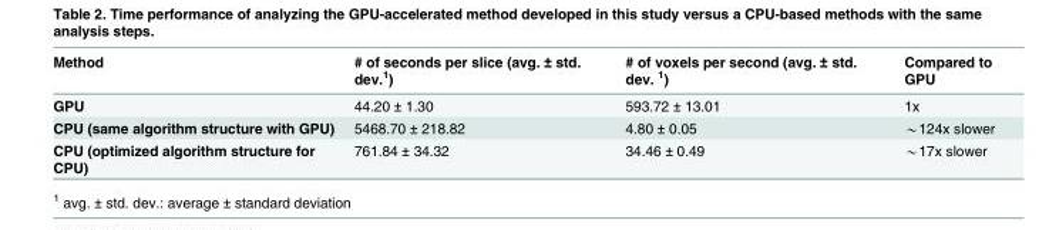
<table><thead><tr><td>Method</td><td># of seconds per slice (avg. ± std. dev.<sup>1</sup>)</td><td># of voxels per second (avg. ± std. dev. <sup>1</sup>)</td><td>Compared to GPU</td></tr></thead><tbody><tr><td>GPU</td><td>44.20 ± 1.30</td><td>593.72 ± 13.01</td><td>1x</td></tr><tr><td>CPU (same algorithm structure with GPU)</td><td>5468.70 ± 218.82</td><td>4.80 ± 0.05</td><td>*124x slower</td></tr><tr><td>CPU (optimized algorithm structure for CPU)</td><td>761.84 ± 34.32</td><td>34.46 ± 0.49</td><td>*17x slower</td></tr></tbody></table>